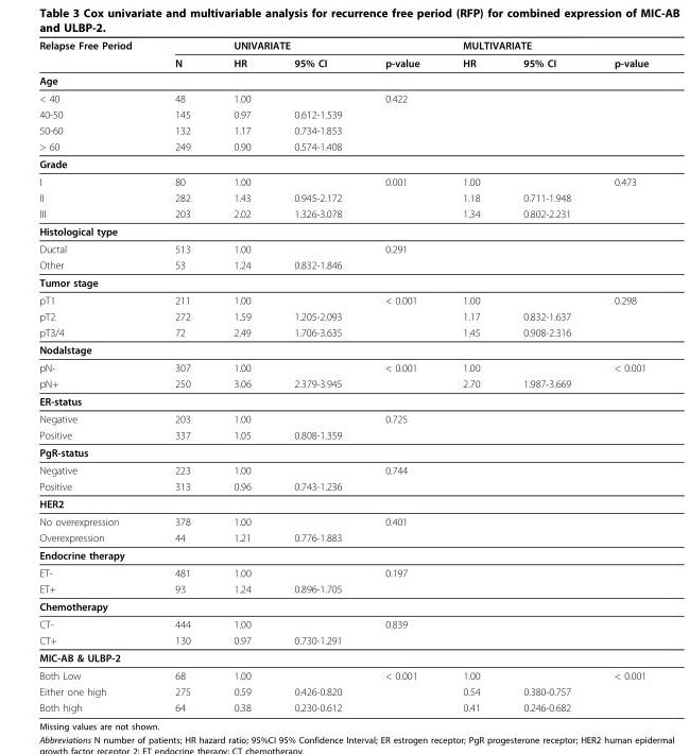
<table><thead><tr><td rowspan="2">Relapse Free Period</td><td rowspan="2">N</td><td colspan="3">UNIVARIATE</td><td colspan="3">MULTIVARIATE</td></tr><tr><td>HR</td><td>95% CI</td><td>p-value</td><td>HR</td><td>95% CI</td><td>p-value</td></tr></thead><tbody><tr><td colspan="8">Age</td></tr><tr><td>&lt; 40</td><td>48</td><td>1.00</td><td></td><td>0.422</td><td></td><td></td><td></td></tr><tr><td>40-50</td><td>145</td><td>0.97</td><td>0.612-1.539</td><td></td><td></td><td></td><td></td></tr><tr><td>50-60</td><td>132</td><td>1.17</td><td>0.734-1.853</td><td></td><td></td><td></td><td></td></tr><tr><td>&gt; 60</td><td>249</td><td>0.90</td><td>0.574-1.408</td><td></td><td></td><td></td><td></td></tr><tr><td colspan="8">Grade</td></tr><tr><td>I</td><td>80</td><td>1.00</td><td></td><td>0.001</td><td>1.00</td><td></td><td>0.473</td></tr><tr><td>II</td><td>282</td><td>1.43</td><td>0.945-2.172</td><td></td><td>1.18</td><td>0.711-1.948</td><td></td></tr><tr><td>III</td><td>203</td><td>2.02</td><td>1.326-3.078</td><td></td><td>1.34</td><td>0.802-2.231</td><td></td></tr><tr><td colspan="8">Histological type</td></tr><tr><td>Ductal</td><td>513</td><td>1.00</td><td></td><td>0.291</td><td></td><td></td><td></td></tr><tr><td>Other</td><td>53</td><td>1.24</td><td>0.832-1.846</td><td></td><td></td><td></td><td></td></tr><tr><td colspan="8">Tumor stage</td></tr><tr><td>pT1</td><td>211</td><td>1.00</td><td></td><td>&lt; 0.001</td><td>1.00</td><td></td><td>0.298</td></tr><tr><td>pT2</td><td>272</td><td>1.59</td><td>1.205-2.093</td><td></td><td>1.17</td><td>0.832-1.637</td><td></td></tr><tr><td>pT3/4</td><td>72</td><td>2.49</td><td>1.706-3.635</td><td></td><td>1.45</td><td>0.908-2.316</td><td></td></tr><tr><td colspan="8">Nodalstage</td></tr><tr><td>pN-</td><td>307</td><td>1.00</td><td></td><td>&lt; 0.001</td><td>1.00</td><td></td><td>&lt; 0.001</td></tr><tr><td>pN+</td><td>250</td><td>3.06</td><td>2.379-3.945</td><td></td><td>2.70</td><td>1.987-3.669</td><td></td></tr><tr><td colspan="8">ER-status</td></tr><tr><td>Negative</td><td>203</td><td>1.00</td><td></td><td>0.725</td><td></td><td></td><td></td></tr><tr><td>Positive</td><td>337</td><td>1.05</td><td>0.808-1.359</td><td></td><td></td><td></td><td></td></tr><tr><td colspan="8">PgR-status</td></tr><tr><td>Negative</td><td>223</td><td>1.00</td><td></td><td>0.744</td><td></td><td></td><td></td></tr><tr><td>Positive</td><td>313</td><td>0.96</td><td>0.743-1.236</td><td></td><td></td><td></td><td></td></tr><tr><td colspan="8">HER2</td></tr><tr><td>No overexpression</td><td>378</td><td>1.00</td><td></td><td>0.401</td><td></td><td></td><td></td></tr><tr><td>Overexpression</td><td>44</td><td>1.21</td><td>0.776-1.883</td><td></td><td></td><td></td><td></td></tr><tr><td colspan="8">Endocrine therapy</td></tr><tr><td>ET-</td><td>481</td><td>1.00</td><td></td><td>0.197</td><td></td><td></td><td></td></tr><tr><td>ET+</td><td>93</td><td>1.24</td><td>0.896-1.705</td><td></td><td></td><td></td><td></td></tr><tr><td colspan="8">Chemotherapy</td></tr><tr><td>CT-</td><td>444</td><td>1.00</td><td></td><td>0.839</td><td></td><td></td><td></td></tr><tr><td>CT+</td><td>130</td><td>0.97</td><td>0.730-1.291</td><td></td><td></td><td></td><td></td></tr><tr><td colspan="8">MIC-AB &amp; ULBP-2</td></tr><tr><td>Both Low</td><td>68</td><td>1.00</td><td></td><td>&lt; 0.001</td><td>1.00</td><td></td><td>&lt; 0.001</td></tr><tr><td>Either one high</td><td>275</td><td>0.59</td><td>0.426-0.820</td><td></td><td>0.54</td><td>0.380-0.757</td><td></td></tr><tr><td>Both high</td><td>64</td><td>0.38</td><td>0.230-0.612</td><td></td><td>0.41</td><td>0.246-0.682</td><td></td></tr></tbody></table>